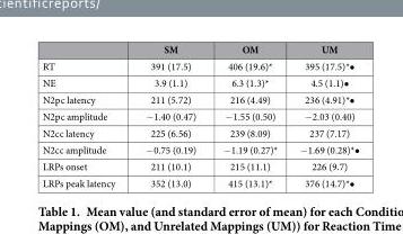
<table><thead><tr><td></td><td>SM</td><td>OM</td><td>UM</td></tr></thead><tbody><tr><td>RT</td><td>391 (17.5)</td><td>406 (19.6)*</td><td>395 (17.5)*•</td></tr><tr><td>NE</td><td>3.9 (1.1)</td><td>6.3 (1.3)*</td><td>4.5 (1.1)•</td></tr><tr><td>N2pc latency</td><td>211 (5.72)</td><td>216 (4.49)</td><td>236 (4.91)*•</td></tr><tr><td>N2pc amplitude</td><td>− 1.40 (0.47)</td><td>− 1.55 (0.50)</td><td>− 2.03 (0.40)</td></tr><tr><td>N2cc latency</td><td>225 (6.56)</td><td>239 (8.09)</td><td>237 (7.17)</td></tr><tr><td>N2cc amplitude</td><td>− 0.75 (0.19)</td><td>− 1.19 (0.27)*</td><td>− 1.69 (0.28)*•</td></tr><tr><td>LRPs onset</td><td>211 (10.1)</td><td>215 (11.1)</td><td>226 (9.7)</td></tr><tr><td>LRPs peak latency</td><td>352 (13.0)</td><td>415 (13.1)*</td><td>376 (14.7)*•</td></tr></tbody></table>